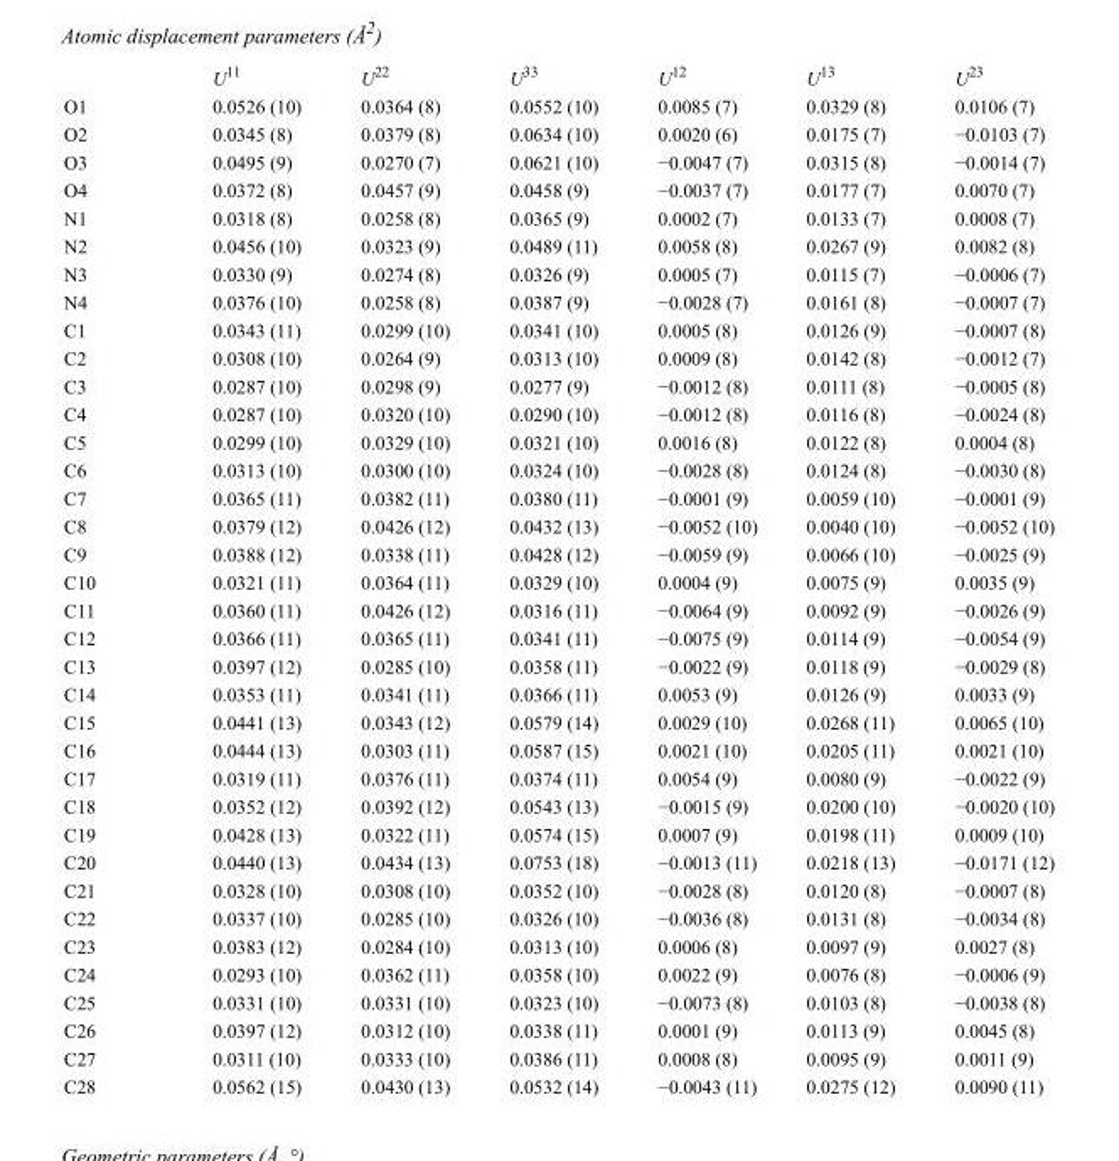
<table><thead><tr><td></td><td>U<sup>11</sup></td><td>U<sup>22</sup></td><td>U<sup>33</sup></td><td>U<sup>12</sup></td><td>U<sup>13</sup></td><td>U<sup>23</sup></td></tr></thead><tbody><tr><td>O1</td><td>0.0526 (10)</td><td>0.0364 (8)</td><td>0.0552 (10)</td><td>0.0085 (7)</td><td>0.0329 (8)</td><td>0.0106 (7)</td></tr><tr><td>O2</td><td>0.0345 (8)</td><td>0.0379 (8)</td><td>0.0634 (10)</td><td>0.0020 (6)</td><td>0.0175 (7)</td><td>−0.0103 (7)</td></tr><tr><td>O3</td><td>0.0495 (9)</td><td>0.0270 (7)</td><td>0.0621 (10)</td><td>−0.0047 (7)</td><td>0.0315 (8)</td><td>−0.0014 (7)</td></tr><tr><td>O4</td><td>0.0372 (8)</td><td>0.0457 (9)</td><td>0.0458 (9)</td><td>−0.0037 (7)</td><td>0.0177 (7)</td><td>0.0070 (7)</td></tr><tr><td>N1</td><td>0.0318 (8)</td><td>0.0258 (8)</td><td>0.0365 (9)</td><td>0.0002 (7)</td><td>0.0133 (7)</td><td>0.0008 (7)</td></tr><tr><td>N2</td><td>0.0456 (10)</td><td>0.0323 (9)</td><td>0.0489 (11)</td><td>0.0058 (8)</td><td>0.0267 (9)</td><td>0.0082 (8)</td></tr><tr><td>N3</td><td>0.0330 (9)</td><td>0.0274 (8)</td><td>0.0326 (9)</td><td>0.0005 (7)</td><td>0.0115 (7)</td><td>−0.0006 (7)</td></tr><tr><td>N4</td><td>0.0376 (10)</td><td>0.0258 (8)</td><td>0.0387 (9)</td><td>−0.0028 (7)</td><td>0.0161 (8)</td><td>−0.0007 (7)</td></tr><tr><td>C1</td><td>0.0343 (11)</td><td>0.0299 (10)</td><td>0.0341 (10)</td><td>0.0005 (8)</td><td>0.0126 (9)</td><td>−0.0007 (8)</td></tr><tr><td>C2</td><td>0.0308 (10)</td><td>0.0264 (9)</td><td>0.0313 (10)</td><td>0.0009 (8)</td><td>0.0142 (8)</td><td>−0.0012 (7)</td></tr><tr><td>C3</td><td>0.0287 (10)</td><td>0.0298 (9)</td><td>0.0277 (9)</td><td>−0.0012 (8)</td><td>0.0111 (8)</td><td>−0.0005 (8)</td></tr><tr><td>C4</td><td>0.0287 (10)</td><td>0.0320 (10)</td><td>0.0290 (10)</td><td>−0.0012 (8)</td><td>0.0116 (8)</td><td>−0.0024 (8)</td></tr><tr><td>C5</td><td>0.0299 (10)</td><td>0.0329 (10)</td><td>0.0321 (10)</td><td>0.0016 (8)</td><td>0.0122 (8)</td><td>0.0004 (8)</td></tr><tr><td>C6</td><td>0.0313 (10)</td><td>0.0300 (10)</td><td>0.0324 (10)</td><td>−0.0028 (8)</td><td>0.0124 (8)</td><td>−0.0030 (8)</td></tr><tr><td>C7</td><td>0.0365 (11)</td><td>0.0382 (11)</td><td>0.0380 (11)</td><td>−0.0001 (9)</td><td>0.0059 (10)</td><td>−0.0001 (9)</td></tr><tr><td>C8</td><td>0.0379 (12)</td><td>0.0426 (12)</td><td>0.0432 (13)</td><td>−0.0052 (10)</td><td>0.0040 (10)</td><td>−0.0052 (10)</td></tr><tr><td>C9</td><td>0.0388 (12)</td><td>0.0338 (11)</td><td>0.0428 (12)</td><td>−0.0059 (9)</td><td>0.0066 (10)</td><td>−0.0025 (9)</td></tr><tr><td>C10</td><td>0.0321 (11)</td><td>0.0364 (11)</td><td>0.0329 (10)</td><td>0.0004 (9)</td><td>0.0075 (9)</td><td>0.0035 (9)</td></tr><tr><td>C11</td><td>0.0360 (11)</td><td>0.0426 (12)</td><td>0.0316 (11)</td><td>−0.0064 (9)</td><td>0.0092 (9)</td><td>−0.0026 (9)</td></tr><tr><td>C12</td><td>0.0366 (11)</td><td>0.0365 (11)</td><td>0.0341 (11)</td><td>−0.0075 (9)</td><td>0.0114 (9)</td><td>−0.0054 (9)</td></tr><tr><td>C13</td><td>0.0397 (12)</td><td>0.0285 (10)</td><td>0.0358 (11)</td><td>−0.0022 (9)</td><td>0.0118 (9)</td><td>−0.0029 (8)</td></tr><tr><td>C14</td><td>0.0353 (11)</td><td>0.0341 (11)</td><td>0.0366 (11)</td><td>0.0053 (9)</td><td>0.0126 (9)</td><td>0.0033 (9)</td></tr><tr><td>C15</td><td>0.0441 (13)</td><td>0.0343 (12)</td><td>0.0579 (14)</td><td>0.0029 (10)</td><td>0.0268 (11)</td><td>0.0065 (10)</td></tr><tr><td>C16</td><td>0.0444 (13)</td><td>0.0303 (11)</td><td>0.0587 (15)</td><td>0.0021 (10)</td><td>0.0205 (11)</td><td>0.0021 (10)</td></tr><tr><td>C17</td><td>0.0319 (11)</td><td>0.0376 (11)</td><td>0.0374 (11)</td><td>0.0054 (9)</td><td>0.0080 (9)</td><td>−0.0022 (9)</td></tr><tr><td>C18</td><td>0.0352 (12)</td><td>0.0392 (12)</td><td>0.0543 (13)</td><td>−0.0015 (9)</td><td>0.0200 (10)</td><td>−0.0020 (10)</td></tr><tr><td>C19</td><td>0.0428 (13)</td><td>0.0322 (11)</td><td>0.0574 (15)</td><td>0.0007 (9)</td><td>0.0198 (11)</td><td>0.0009 (10)</td></tr><tr><td>C20</td><td>0.0440 (13)</td><td>0.0434 (13)</td><td>0.0753 (18)</td><td>−0.0013 (11)</td><td>0.0218 (13)</td><td>−0.0171 (12)</td></tr><tr><td>C21</td><td>0.0328 (10)</td><td>0.0308 (10)</td><td>0.0352 (10)</td><td>−0.0028 (8)</td><td>0.0120 (8)</td><td>−0.0007 (8)</td></tr><tr><td>C22</td><td>0.0337 (10)</td><td>0.0285 (10)</td><td>0.0326 (10)</td><td>−0.0036 (8)</td><td>0.0131 (8)</td><td>−0.0034 (8)</td></tr><tr><td>C23</td><td>0.0383 (12)</td><td>0.0284 (10)</td><td>0.0313 (10)</td><td>0.0006 (8)</td><td>0.0097 (9)</td><td>0.0027 (8)</td></tr><tr><td>C24</td><td>0.0293 (10)</td><td>0.0362 (11)</td><td>0.0358 (10)</td><td>0.0022 (9)</td><td>0.0076 (8)</td><td>−0.0006 (9)</td></tr><tr><td>C25</td><td>0.0331 (10)</td><td>0.0331 (10)</td><td>0.0323 (10)</td><td>−0.0073 (8)</td><td>0.0103 (8)</td><td>−0.0038 (8)</td></tr><tr><td>C26</td><td>0.0397 (12)</td><td>0.0312 (10)</td><td>0.0338 (11)</td><td>0.0001 (9)</td><td>0.0113 (9)</td><td>0.0045 (8)</td></tr><tr><td>C27</td><td>0.0311 (10)</td><td>0.0333 (10)</td><td>0.0386 (11)</td><td>0.0008 (8)</td><td>0.0095 (9)</td><td>0.0011 (9)</td></tr><tr><td>C28</td><td>0.0562 (15)</td><td>0.0430 (13)</td><td>0.0532 (14)</td><td>−0.0043 (11)</td><td>0.0275 (12)</td><td>0.0090 (11)</td></tr></tbody></table>